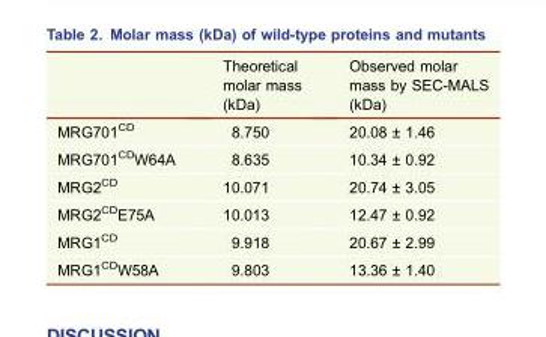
<table><thead><tr><td></td><td>Theoretical molar mass (kDa)</td><td>Observed molar mass by SEC-MALS (kDa)</td></tr></thead><tbody><tr><td>MRG701<sup>CD</sup></td><td>8.750</td><td>20.08 ± 1.46</td></tr><tr><td>MRG701<sup>CD</sup>W64A</td><td>8.635</td><td>10.34 ± 0.92</td></tr><tr><td>MRG2<sup>CD</sup></td><td>10.071</td><td>20.74 ± 3.05</td></tr><tr><td>MRG2<sup>CD</sup>E75A</td><td>10.013</td><td>12.47 ± 0.92</td></tr><tr><td>MRG1<sup>CD</sup></td><td>9.918</td><td>20.67 ± 2.99</td></tr><tr><td>MRG1<sup>CD</sup>W58A</td><td>9.803</td><td>13.36 ± 1.40</td></tr></tbody></table>